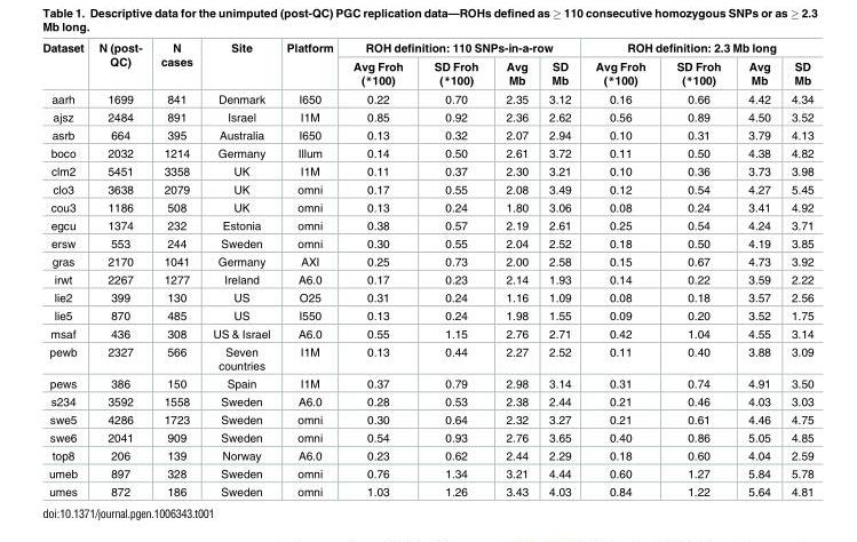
<table><thead><tr><td rowspan="2">Dataset</td><td rowspan="2">N (post- QC)</td><td rowspan="2">N cases</td><td rowspan="2">Site</td><td rowspan="2">Platform</td><td colspan="4">ROH definition: 110 SNPs-in-a-row</td><td colspan="4">ROH definition: 2.3 Mb long</td></tr><tr><td>Avg Froh (*100)</td><td>SD Froh (*100)</td><td>Avg Mb</td><td>SD Mb</td><td>Avg Froh (*100)</td><td>SD Froh (*100)</td><td>Avg Mb</td><td>SD Mb</td></tr></thead><tbody><tr><td>aarh</td><td>1699</td><td>841</td><td>Denmark</td><td>I650</td><td>0.22</td><td>0.70</td><td>2.35</td><td>3.12</td><td>0.16</td><td>0.66</td><td>4.42</td><td>4.34</td></tr><tr><td>ajsz</td><td>2484</td><td>891</td><td>Israel</td><td>I1M</td><td>0.85</td><td>0.92</td><td>2.36</td><td>2.62</td><td>0.56</td><td>0.89</td><td>4.50</td><td>3.52</td></tr><tr><td>asrb</td><td>664</td><td>395</td><td>Australia</td><td>I650</td><td>0.13</td><td>0.32</td><td>2.07</td><td>2.94</td><td>0.10</td><td>0.31</td><td>3.79</td><td>4.13</td></tr><tr><td>boco</td><td>2032</td><td>1214</td><td>Germany</td><td>Illum</td><td>0.14</td><td>0.50</td><td>2.61</td><td>3.72</td><td>0.11</td><td>0.50</td><td>4.38</td><td>4.82</td></tr><tr><td>clm2</td><td>5451</td><td>3358</td><td>UK</td><td>I1M</td><td>0.11</td><td>0.37</td><td>2.30</td><td>3.21</td><td>0.10</td><td>0.36</td><td>3.73</td><td>3.98</td></tr><tr><td>clo3</td><td>3638</td><td>2079</td><td>UK</td><td>omni</td><td>0.17</td><td>0.55</td><td>2.08</td><td>3.49</td><td>0.12</td><td>0.54</td><td>4.27</td><td>5.45</td></tr><tr><td>cou3</td><td>1186</td><td>508</td><td>UK</td><td>omni</td><td>0.13</td><td>0.24</td><td>1.80</td><td>3.06</td><td>0.08</td><td>0.24</td><td>3.41</td><td>4.92</td></tr><tr><td>egcu</td><td>1374</td><td>232</td><td>Estonia</td><td>omni</td><td>0.38</td><td>0.57</td><td>2.19</td><td>2.61</td><td>0.25</td><td>0.54</td><td>4.24</td><td>3.71</td></tr><tr><td>ersw</td><td>553</td><td>244</td><td>Sweden</td><td>omni</td><td>0.30</td><td>0.55</td><td>2.04</td><td>2.52</td><td>0.18</td><td>0.50</td><td>4.19</td><td>3.85</td></tr><tr><td>gras</td><td>2170</td><td>1041</td><td>Germany</td><td>AXI</td><td>0.25</td><td>0.73</td><td>2.00</td><td>2.58</td><td>0.15</td><td>0.67</td><td>4.73</td><td>3.92</td></tr><tr><td>irwt</td><td>2267</td><td>1277</td><td>Ireland</td><td>A6.0</td><td>0.17</td><td>0.23</td><td>2.14</td><td>1.93</td><td>0.14</td><td>0.22</td><td>3.59</td><td>2.22</td></tr><tr><td>lie2</td><td>399</td><td>130</td><td>US</td><td>O25</td><td>0.31</td><td>0.24</td><td>1.16</td><td>1.09</td><td>0.08</td><td>0.18</td><td>3.57</td><td>2.56</td></tr><tr><td>lie5</td><td>870</td><td>485</td><td>US</td><td>I550</td><td>0.13</td><td>0.24</td><td>1.98</td><td>1.55</td><td>0.09</td><td>0.20</td><td>3.52</td><td>1.75</td></tr><tr><td>msaf</td><td>436</td><td>308</td><td>US &amp; Israel</td><td>A6.0</td><td>0.55</td><td>1.15</td><td>2.76</td><td>2.71</td><td>0.42</td><td>1.04</td><td>4.55</td><td>3.14</td></tr><tr><td>pewb</td><td>2327</td><td>566</td><td>Seven countries</td><td>I1M</td><td>0.13</td><td>0.44</td><td>2.27</td><td>2.52</td><td>0.11</td><td>0.40</td><td>3.88</td><td>3.09</td></tr><tr><td>pews</td><td>386</td><td>150</td><td>Spain</td><td>I1M</td><td>0.37</td><td>0.79</td><td>2.98</td><td>3.14</td><td>0.31</td><td>0.74</td><td>4.91</td><td>3.50</td></tr><tr><td>s234</td><td>3592</td><td>1558</td><td>Sweden</td><td>A6.0</td><td>0.28</td><td>0.53</td><td>2.38</td><td>2.44</td><td>0.21</td><td>0.46</td><td>4.03</td><td>3.03</td></tr><tr><td>swe5</td><td>4286</td><td>1723</td><td>Sweden</td><td>omni</td><td>0.30</td><td>0.64</td><td>2.32</td><td>3.27</td><td>0.21</td><td>0.61</td><td>4.46</td><td>4.75</td></tr><tr><td>swe6</td><td>2041</td><td>909</td><td>Sweden</td><td>omni</td><td>0.54</td><td>0.93</td><td>2.76</td><td>3.65</td><td>0.40</td><td>0.86</td><td>5.05</td><td>4.85</td></tr><tr><td>top8</td><td>206</td><td>139</td><td>Norway</td><td>A6.0</td><td>0.23</td><td>0.62</td><td>2.44</td><td>2.29</td><td>0.18</td><td>0.60</td><td>4.04</td><td>2.59</td></tr><tr><td>umeb</td><td>897</td><td>328</td><td>Sweden</td><td>omni</td><td>0.76</td><td>1.34</td><td>3.21</td><td>4.44</td><td>0.60</td><td>1.27</td><td>5.84</td><td>5.78</td></tr><tr><td>umes</td><td>872</td><td>186</td><td>Sweden</td><td>omni</td><td>1.03</td><td>1.26</td><td>3.43</td><td>4.03</td><td>0.84</td><td>1.22</td><td>5.64</td><td>4.81</td></tr></tbody></table>